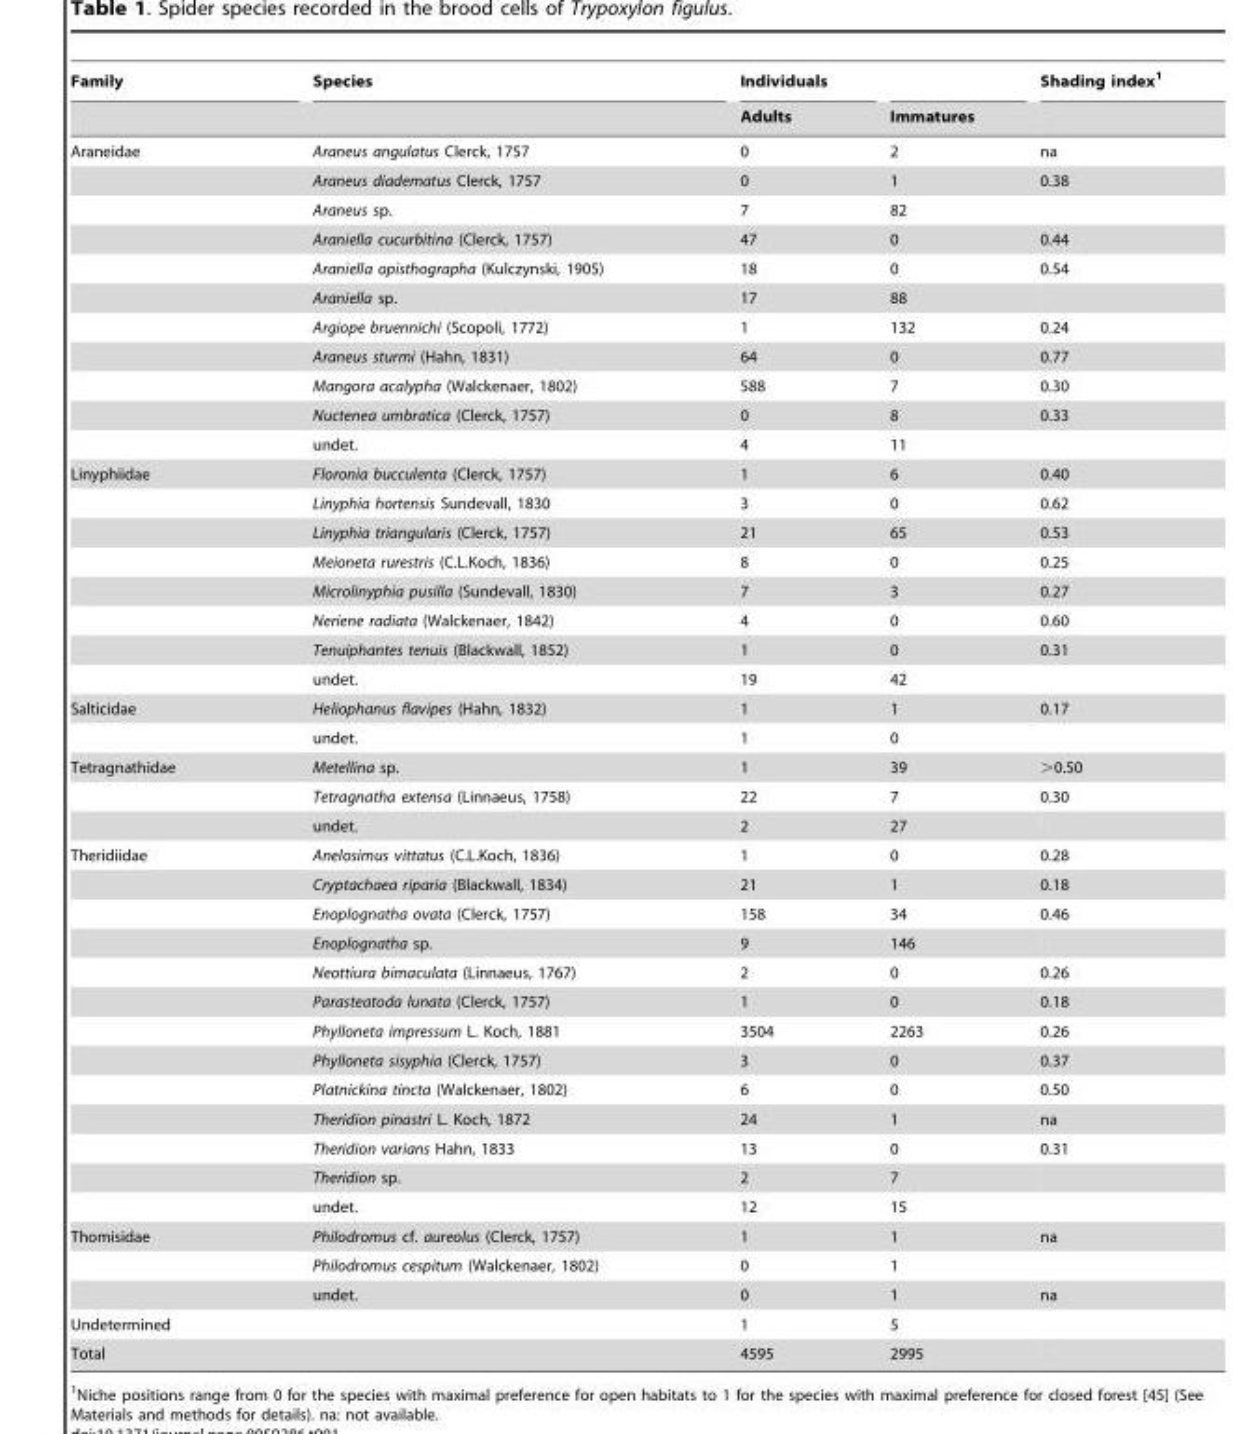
<table><thead><tr><td rowspan="2">Family</td><td rowspan="2">Species</td><td rowspan="2">Individuals Adults</td><td rowspan="2">Immatures</td><td rowspan="2">Shading index<sup>1</sup></td></tr><tr></tr></thead><tbody><tr><td rowspan="11">Araneidae</td><td>Araneus angulatus Clerck, 1757</td><td>0</td><td>2</td><td>na</td></tr><tr><td>Araneus diadematus Clerck, 1757</td><td>0</td><td>1</td><td>0.38</td></tr><tr><td>Araneus sp.</td><td>7</td><td>82</td><td></td></tr><tr><td>Araniella cucurbitina (Clerck, 1757)</td><td>47</td><td>0</td><td>0.44</td></tr><tr><td>Araniella opisthographa (Kulczynski, 1905)</td><td>18</td><td>0</td><td>0.54</td></tr><tr><td>Araniella sp.</td><td>17</td><td>88</td><td></td></tr><tr><td>Argiope bruennichi (Scopoli, 1772)</td><td>1</td><td>132</td><td>0.24</td></tr><tr><td>Araneus sturmi (Hahn, 1831)</td><td>64</td><td>0</td><td>0.77</td></tr><tr><td>Mangora acalypha (Walckenaer, 1802)</td><td>588</td><td>7</td><td>0.30</td></tr><tr><td>Nuctenea umbratica (Clerck, 1757)</td><td>0</td><td>8</td><td>0.33</td></tr><tr><td>undet.</td><td>4</td><td>11</td><td></td></tr><tr><td rowspan="8">Linyphiidae</td><td>Floronia bucculenta (Clerck, 1757)</td><td>1</td><td>6</td><td>0.40</td></tr><tr><td>Linyphia hortensis Sundevall, 1830</td><td>3</td><td>0</td><td>0.62</td></tr><tr><td>Linyphia triangularis (Clerck, 1757)</td><td>21</td><td>65</td><td>0.53</td></tr><tr><td>Meioneta rurestris (C.L.Koch, 1836)</td><td>8</td><td>0</td><td>0.25</td></tr><tr><td>Microlinyphia pusilla (Sundevall, 1830)</td><td>7</td><td>3</td><td>0.27</td></tr><tr><td>Neriene radiata (Walckenaer, 1842)</td><td>4</td><td>0</td><td>0.60</td></tr><tr><td>Tenuiphantes tenuis (Blackwall, 1852)</td><td>1</td><td>0</td><td>0.31</td></tr><tr><td>undet.</td><td>19</td><td>42</td><td></td></tr><tr><td rowspan="2">Salticidae</td><td>Heliophanus flavipes (Hahn, 1832)</td><td>1</td><td>1</td><td>0.17</td></tr><tr><td>undet.</td><td>1</td><td>0</td><td></td></tr><tr><td rowspan="3">Tetragnathidae</td><td>Metellina sp.</td><td>1</td><td>39</td><td>&gt;0.50</td></tr><tr><td>Tetragnatha extensa (Linnaeus, 1758)</td><td>22</td><td>7</td><td>0.30</td></tr><tr><td>undet.</td><td>2</td><td>27</td><td></td></tr><tr><td rowspan="13">Theridiidae</td><td>Anelosimus vittatus (C.L.Koch, 1836)</td><td>1</td><td>0</td><td>0.28</td></tr><tr><td>Cryptachaea riparia (Blackwall, 1834)</td><td>21</td><td>1</td><td>0.18</td></tr><tr><td>Enoplognatha ovata (Clerck, 1757)</td><td>158</td><td>34</td><td>0.46</td></tr><tr><td>Enoplognatha sp.</td><td>9</td><td>146</td><td></td></tr><tr><td>Neottiura bimaculata (Linnaeus, 1767)</td><td>2</td><td>0</td><td>0.26</td></tr><tr><td>Parasteatoda lunata (Clerck, 1757)</td><td>1</td><td>0</td><td>0.18</td></tr><tr><td>Phylloneta impressum L. Koch, 1881</td><td>3504</td><td>2263</td><td>0.26</td></tr><tr><td>Phylloneta sisyphia (Clerck, 1757)</td><td>3</td><td>0</td><td>0.37</td></tr><tr><td>Platnickina tincta (Walckenaer, 1802)</td><td>6</td><td>0</td><td>0.50</td></tr><tr><td>Theridion pinastri L. Koch, 1872</td><td>24</td><td>1</td><td>na</td></tr><tr><td>Theridion varians Hahn, 1833</td><td>13</td><td>0</td><td>0.31</td></tr><tr><td>Theridion sp.</td><td>2</td><td>7</td><td></td></tr><tr><td>undet.</td><td>12</td><td>15</td><td></td></tr><tr><td rowspan="3">Thomisidae</td><td>Philodromus cf. aureolus (Clerck, 1757)</td><td>1</td><td>1</td><td>na</td></tr><tr><td>Philodromus cespitum (Walckenaer, 1802)</td><td>0</td><td>1</td><td></td></tr><tr><td>undet.</td><td>0</td><td>1</td><td>na</td></tr><tr><td>Undetermined</td><td></td><td>1</td><td>5</td><td></td></tr><tr><td>Total</td><td></td><td>4595</td><td>2995</td><td></td></tr></tbody></table>